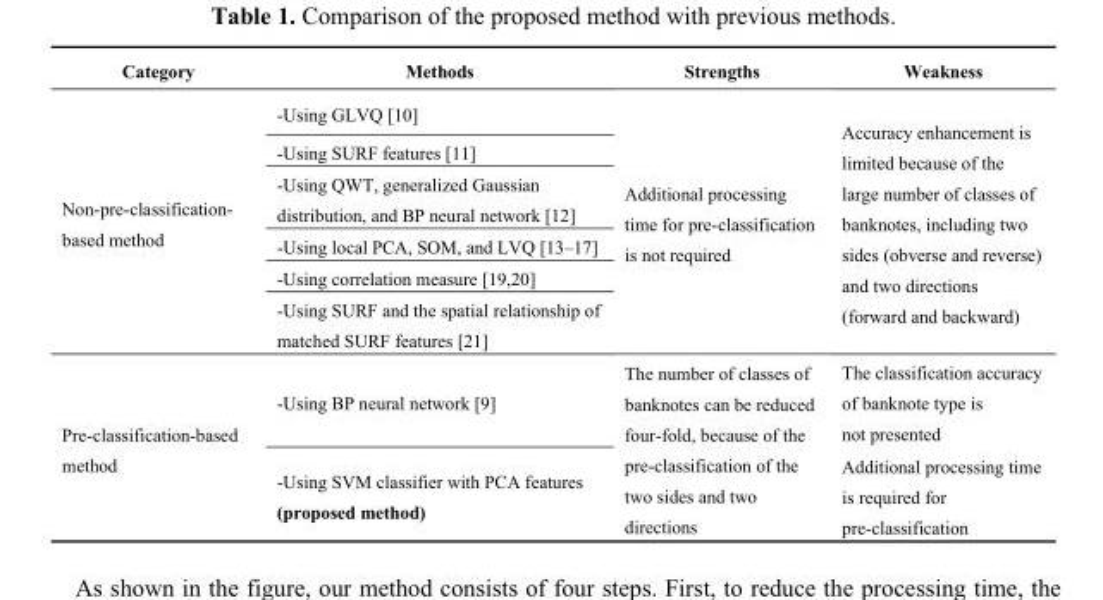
<table><thead><tr><td>Category</td><td>Methods</td><td>Strengths</td><td>Weakness</td></tr></thead><tbody><tr><td rowspan="6">Non-pre-classification- based method</td><td>-Using GLVQ [10]</td><td rowspan="6">Additional processing time for pre-classification is not required</td><td rowspan="6">Accuracy enhancement is limited because of the large number of classes of banknotes, including two sides (obverse and reverse) and two directions (forward and backward)</td></tr><tr><td>-Using SURF features [11]</td></tr><tr><td>-Using QWT, generalized Gaussian distribution, and BP neural network [12]</td></tr><tr><td>-Using local PCA, SOM, and LVQ [13–17]</td></tr><tr><td>-Using correlation measure [19,20]</td></tr><tr><td>-Using SURF and the spatial relationship of matched SURF features [21]</td></tr><tr><td rowspan="2">Pre-classification-based method</td><td>-Using BP neural network [9]</td><td rowspan="2">The number of classes of banknotes can be reduced four-fold, because of the pre-classification of the two sides and two directions</td><td>The classification accuracy of banknote type is not presented</td></tr><tr><td>-Using SVM classifier with PCA features (proposed method)</td><td>Additional processing time is required for pre-classification</td></tr></tbody></table>